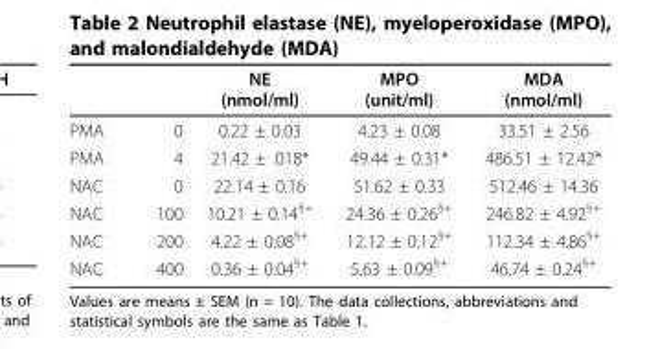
<table><thead><tr><td></td><td></td><td>NE (nmol/ml)</td><td>MPO (unit/ml)</td><td>MDA (nmol/ml)</td></tr></thead><tbody><tr><td>PMA</td><td>0</td><td>0.22 ± 0.03</td><td>4.23 ± 0.08</td><td>33.51 ± 2.56</td></tr><tr><td>PMA</td><td>4</td><td>21.42 ± .018*</td><td>49.44 ± 0.31*</td><td>486.51 ± 12.42*</td></tr><tr><td>NAC</td><td>0</td><td>22.14 ± 0.16</td><td>51.62 ± 0.33</td><td>512.46 ± 14.36</td></tr><tr><td>NAC</td><td>100</td><td>10.21 ± 0.14<sup>§+</sup></td><td>24.36 ± 0.26<sup>§+</sup></td><td>246.82 ± 4.92<sup>§+</sup></td></tr><tr><td>NAC</td><td>200</td><td>4.22 ± 0.08<sup>§+</sup></td><td>12.12 ± 0.12<sup>§+</sup></td><td>112.34 ± 4.86<sup>§+</sup></td></tr><tr><td>NAC</td><td>400</td><td>0.36 ± 0.04<sup>§+</sup></td><td>5.63 ± 0.09<sup>§+</sup></td><td>46.74 ± 0.24<sup>§+</sup></td></tr></tbody></table>